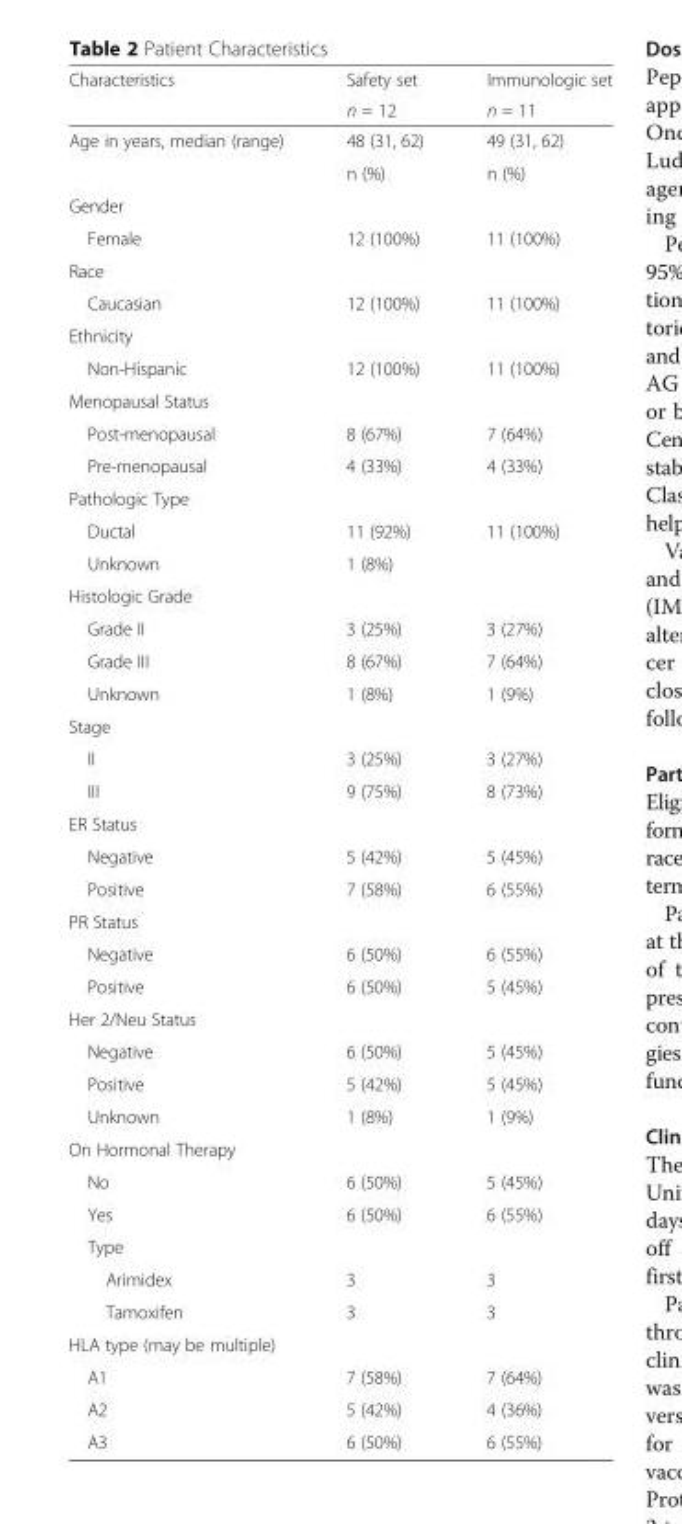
<table><thead><tr><td rowspan="2">Characteristics</td><td rowspan="2">Safety set n = 12</td><td rowspan="2">Immunologic set n = 11</td></tr><tr></tr></thead><tbody><tr><td rowspan="2">Age in years, median (range)</td><td>48 (31, 62)</td><td>49 (31, 62)</td></tr><tr><td>n (%)</td><td>n (%)</td></tr><tr><td colspan="3">Gender</td></tr><tr><td>Female</td><td>12 (100%)</td><td>11 (100%)</td></tr><tr><td colspan="3">Race</td></tr><tr><td>Caucasian</td><td>12 (100%)</td><td>11 (100%)</td></tr><tr><td colspan="3">Ethnicity</td></tr><tr><td>Non-Hispanic</td><td>12 (100%)</td><td>11 (100%)</td></tr><tr><td colspan="3">Menopausal Status</td></tr><tr><td>Post-menopausal</td><td>8 (67%)</td><td>7 (64%)</td></tr><tr><td>Pre-menopausal</td><td>4 (33%)</td><td>4 (33%)</td></tr><tr><td colspan="3">Pathologic Type</td></tr><tr><td>Ductal</td><td>11 (92%)</td><td>11 (100%)</td></tr><tr><td>Unknown</td><td>1 (8%)</td><td></td></tr><tr><td colspan="3">Histologic Grade</td></tr><tr><td>Grade II</td><td>3 (25%)</td><td>3 (27%)</td></tr><tr><td>Grade III</td><td>8 (67%)</td><td>7 (64%)</td></tr><tr><td>Unknown</td><td>1 (8%)</td><td>1 (9%)</td></tr><tr><td colspan="3">Stage</td></tr><tr><td>II</td><td>3 (25%)</td><td>3 (27%)</td></tr><tr><td>III</td><td>9 (75%)</td><td>8 (73%)</td></tr><tr><td colspan="3">ER Status</td></tr><tr><td>Negative</td><td>5 (42%)</td><td>5 (45%)</td></tr><tr><td>Positive</td><td>7 (58%)</td><td>6 (55%)</td></tr><tr><td colspan="3">PR Status</td></tr><tr><td>Negative</td><td>6 (50%)</td><td>6 (55%)</td></tr><tr><td>Positive</td><td>6 (50%)</td><td>5 (45%)</td></tr><tr><td colspan="3">Her 2/Neu Status</td></tr><tr><td>Negative</td><td>6 (50%)</td><td>5 (45%)</td></tr><tr><td>Positive</td><td>5 (42%)</td><td>5 (45%)</td></tr><tr><td>Unknown</td><td>1 (8%)</td><td>1 (9%)</td></tr><tr><td colspan="3">On Hormonal Therapy</td></tr><tr><td>No</td><td>6 (50%)</td><td>5 (45%)</td></tr><tr><td>Yes</td><td>6 (50%)</td><td>6 (55%)</td></tr><tr><td colspan="3">Type</td></tr><tr><td>Arimidex</td><td>3</td><td>3</td></tr><tr><td>Tamoxifen</td><td>3</td><td>3</td></tr><tr><td colspan="3">HLA type (may be multiple)</td></tr><tr><td>A1</td><td>7 (58%)</td><td>7 (64%)</td></tr><tr><td>A2</td><td>5 (42%)</td><td>4 (36%)</td></tr><tr><td>A3</td><td>6 (50%)</td><td>6 (55%)</td></tr></tbody></table>